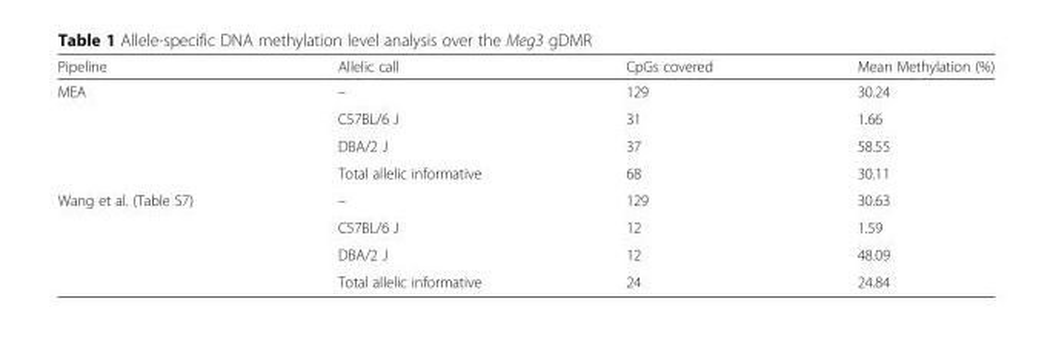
<table><thead><tr><td>Pipeline</td><td>Allelic call</td><td>CpGs covered</td><td>Mean Methylation (%)</td></tr></thead><tbody><tr><td rowspan="4">MEA</td><td>–</td><td>129</td><td>30.24</td></tr><tr><td>C57BL/6 J</td><td>31</td><td>1.66</td></tr><tr><td>DBA/2 J</td><td>37</td><td>58.55</td></tr><tr><td>Total allelic informative</td><td>68</td><td>30.11</td></tr><tr><td rowspan="4">Wang et al. (Table S7)</td><td>–</td><td>129</td><td>30.63</td></tr><tr><td>C57BL/6 J</td><td>12</td><td>1.59</td></tr><tr><td>DBA/2 J</td><td>12</td><td>48.09</td></tr><tr><td>Total allelic informative</td><td>24</td><td>24.84</td></tr></tbody></table>